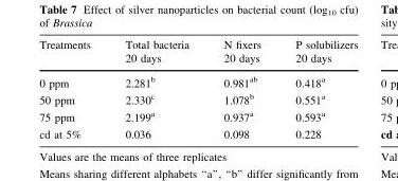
<table><thead><tr><td rowspan="2">Treatments</td><td rowspan="2">Total bacteria 20 days</td><td rowspan="2">N fixers 20 days</td><td rowspan="2">P solubilizers 20 days</td></tr><tr></tr></thead><tbody><tr><td>0 ppm</td><td>2.281<sup>b</sup></td><td>0.981<sup>ab</sup></td><td>0.418<sup>a</sup></td></tr><tr><td>50 ppm</td><td>2.330<sup>c</sup></td><td>1.078<sup>b</sup></td><td>0.551<sup>a</sup></td></tr><tr><td>75 ppm</td><td>2.199<sup>a</sup></td><td>0.937<sup>a</sup></td><td>0.593<sup>a</sup></td></tr><tr><td>cd at 5%</td><td>0.036</td><td>0.098</td><td>0.228</td></tr></tbody></table>